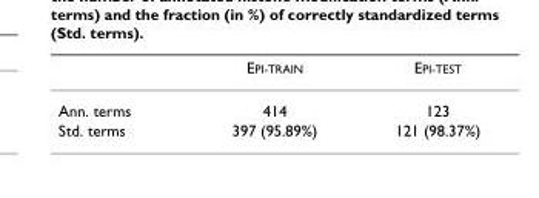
<table><thead><tr><td></td><td>EPI-TRAIN</td><td>EPI-TEST</td></tr></thead><tbody><tr><td>Ann. terms</td><td>414</td><td>123</td></tr><tr><td>Std. terms</td><td>397 (95.89%)</td><td>121 (98.37%)</td></tr></tbody></table>